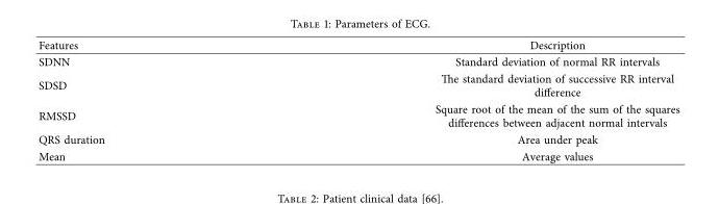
<table><thead><tr><td>Features</td><td>Description</td></tr></thead><tbody><tr><td>SDNN</td><td>Standard deviation of normal RR intervals</td></tr><tr><td>SDSD</td><td>Te standard deviation of successive RR interval diference</td></tr><tr><td>RMSSD</td><td>Square root of the mean of the sum of the squares diferences between adjacent normal intervals</td></tr><tr><td>QRS duration</td><td>Area under peak</td></tr><tr><td>Mean</td><td>Average values</td></tr></tbody></table>